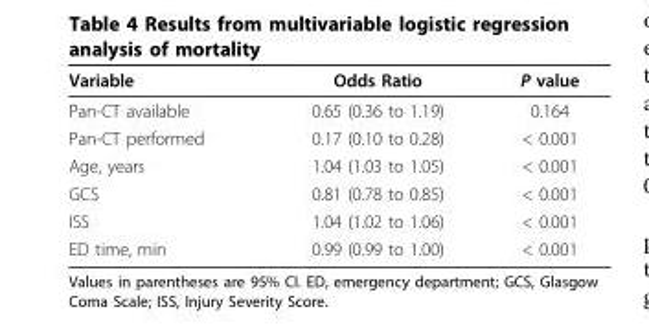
<table><thead><tr><td>Variable</td><td>Odds Ratio</td><td>P value</td></tr></thead><tbody><tr><td>Pan-CT available</td><td>0.65 (0.36 to 1.19)</td><td>0.164</td></tr><tr><td>Pan-CT performed</td><td>0.17 (0.10 to 0.28)</td><td>&lt; 0.001</td></tr><tr><td>Age, years</td><td>1.04 (1.03 to 1.05)</td><td>&lt; 0.001</td></tr><tr><td>GCS</td><td>0.81 (0.78 to 0.85)</td><td>&lt; 0.001</td></tr><tr><td>ISS</td><td>1.04 (1.02 to 1.06)</td><td>&lt; 0.001</td></tr><tr><td>ED time, min</td><td>0.99 (0.99 to 1.00)</td><td>&lt; 0.001</td></tr></tbody></table>